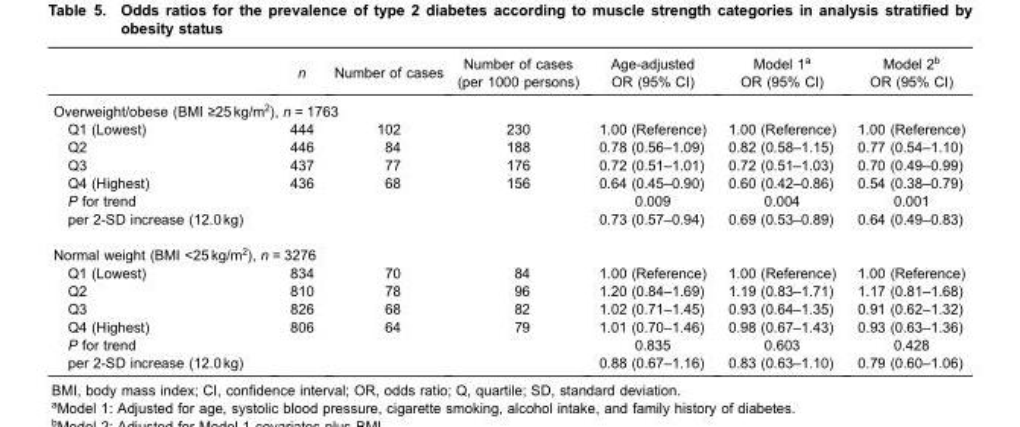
<table><thead><tr><td></td><td>n</td><td>Number of cases</td><td>Number of cases (per 1000 persons)</td><td>Age-adjusted OR (95% CI)</td><td>Model 1<sup>a</sup> OR (95% CI)</td><td>Model 2<sup>b</sup> OR (95% CI)</td></tr></thead><tbody><tr><td colspan="7">Overweight/obese (BMI ≥25 kg/m<sup>2</sup>), n = 1763</td></tr><tr><td>Q1 (Lowest)</td><td>444</td><td>102</td><td>230</td><td>1.00 (Reference)</td><td>1.00 (Reference)</td><td>1.00 (Reference)</td></tr><tr><td>Q2</td><td>446</td><td>84</td><td>188</td><td>0.78 (0.56–1.09)</td><td>0.82 (0.58–1.15)</td><td>0.77 (0.54–1.10)</td></tr><tr><td>Q3</td><td>437</td><td>77</td><td>176</td><td>0.72 (0.51–1.01)</td><td>0.72 (0.51–1.03)</td><td>0.70 (0.49–0.99)</td></tr><tr><td>Q4 (Highest)</td><td>436</td><td>68</td><td>156</td><td>0.64 (0.45–0.90)</td><td>0.60 (0.42–0.86)</td><td>0.54 (0.38–0.79)</td></tr><tr><td>P for trend</td><td></td><td></td><td></td><td>0.009</td><td>0.004</td><td>0.001</td></tr><tr><td>per 2-SD increase (12.0 kg)</td><td></td><td></td><td></td><td>0.73 (0.57–0.94)</td><td>0.69 (0.53–0.89)</td><td>0.64 (0.49–0.83)</td></tr><tr><td colspan="7">Normal weight (BMI &lt;25 kg/m<sup>2</sup>), n = 3276</td></tr><tr><td>Q1 (Lowest)</td><td>834</td><td>70</td><td>84</td><td>1.00 (Reference)</td><td>1.00 (Reference)</td><td>1.00 (Reference)</td></tr><tr><td>Q2</td><td>810</td><td>78</td><td>96</td><td>1.20 (0.84–1.69)</td><td>1.19 (0.83–1.71)</td><td>1.17 (0.81–1.68)</td></tr><tr><td>Q3</td><td>826</td><td>68</td><td>82</td><td>1.02 (0.71–1.45)</td><td>0.93 (0.64–1.35)</td><td>0.91 (0.62–1.32)</td></tr><tr><td>Q4 (Highest)</td><td>806</td><td>64</td><td>79</td><td>1.01 (0.70–1.46)</td><td>0.98 (0.67–1.43)</td><td>0.93 (0.63–1.36)</td></tr><tr><td>P for trend</td><td></td><td></td><td></td><td>0.835</td><td>0.603</td><td>0.428</td></tr><tr><td>per 2-SD increase (12.0 kg)</td><td></td><td></td><td></td><td>0.88 (0.67–1.16)</td><td>0.83 (0.63–1.10)</td><td>0.79 (0.60–1.06)</td></tr></tbody></table>